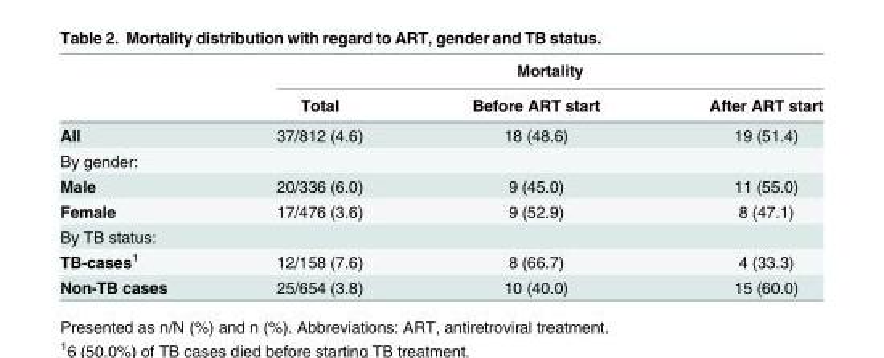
<table><thead><tr><td rowspan="2"></td><td colspan="3">Mortality</td></tr><tr><td>Total</td><td>Before ART start</td><td>After ART start</td></tr></thead><tbody><tr><td>All</td><td>37/812 (4.6)</td><td>18 (48.6)</td><td>19 (51.4)</td></tr><tr><td colspan="4">By gender:</td></tr><tr><td>Male</td><td>20/336 (6.0)</td><td>9 (45.0)</td><td>11 (55.0)</td></tr><tr><td>Female</td><td>17/476 (3.6)</td><td>9 (52.9)</td><td>8 (47.1)</td></tr><tr><td colspan="4">By TB status:</td></tr><tr><td>TB-cases<sup>1</sup></td><td>12/158 (7.6)</td><td>8 (66.7)</td><td>4 (33.3)</td></tr><tr><td>Non-TB cases</td><td>25/654 (3.8)</td><td>10 (40.0)</td><td>15 (60.0)</td></tr></tbody></table>